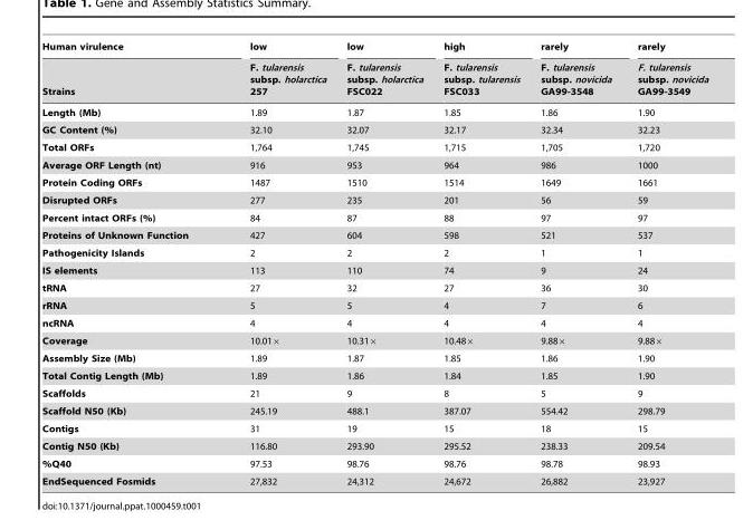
<table><thead><tr><td rowspan="2">Human virulence Strains</td><td rowspan="2">low F. tularensis subsp. holarctica 257</td><td rowspan="2">low F. tularensis subsp. holarctica FSC022</td><td rowspan="2">high F. tularensis subsp. tularensis FSC033</td><td rowspan="2">rarely F. tularensis subsp. novicida GA99-3548</td><td rowspan="2">rarely F. tularensis subsp. novicida GA99-3549</td></tr><tr></tr></thead><tbody><tr><td>Length (Mb)</td><td>1.89</td><td>1.87</td><td>1.85</td><td>1.86</td><td>1.90</td></tr><tr><td>GC Content (%)</td><td>32.10</td><td>32.07</td><td>32.17</td><td>32.34</td><td>32.23</td></tr><tr><td>Total ORFs</td><td>1,764</td><td>1,745</td><td>1,715</td><td>1,705</td><td>1,720</td></tr><tr><td>Average ORF Length (nt)</td><td>916</td><td>953</td><td>964</td><td>986</td><td>1000</td></tr><tr><td>Protein Coding ORFs</td><td>1487</td><td>1510</td><td>1514</td><td>1649</td><td>1661</td></tr><tr><td>Disrupted ORFs</td><td>277</td><td>235</td><td>201</td><td>56</td><td>59</td></tr><tr><td>Percent intact ORFs (%)</td><td>84</td><td>87</td><td>88</td><td>97</td><td>97</td></tr><tr><td>Proteins of Unknown Function</td><td>427</td><td>604</td><td>598</td><td>521</td><td>537</td></tr><tr><td>Pathogenicity Islands</td><td>2</td><td>2</td><td>2</td><td>1</td><td>1</td></tr><tr><td>IS elements</td><td>113</td><td>110</td><td>74</td><td>9</td><td>24</td></tr><tr><td>tRNA</td><td>27</td><td>32</td><td>27</td><td>36</td><td>30</td></tr><tr><td>rRNA</td><td>5</td><td>5</td><td>4</td><td>7</td><td>6</td></tr><tr><td>ncRNA</td><td>4</td><td>4</td><td>4</td><td>4</td><td>4</td></tr><tr><td>Coverage</td><td>10.01×</td><td>10.31×</td><td>10.48×</td><td>9.88×</td><td>9.88×</td></tr><tr><td>Assembly Size (Mb)</td><td>1.89</td><td>1.87</td><td>1.85</td><td>1.86</td><td>1.90</td></tr><tr><td>Total Contig Length (Mb)</td><td>1.89</td><td>1.86</td><td>1.84</td><td>1.85</td><td>1.90</td></tr><tr><td>Scaffolds</td><td>21</td><td>9</td><td>8</td><td>5</td><td>9</td></tr><tr><td>Scaffold N50 (Kb)</td><td>245.19</td><td>488.1</td><td>387.07</td><td>554.42</td><td>298.79</td></tr><tr><td>Contigs</td><td>31</td><td>19</td><td>15</td><td>18</td><td>15</td></tr><tr><td>Contig N50 (Kb)</td><td>116.80</td><td>293.90</td><td>295.52</td><td>238.33</td><td>209.54</td></tr><tr><td>%Q40</td><td>97.53</td><td>98.76</td><td>98.76</td><td>98.78</td><td>98.93</td></tr><tr><td>EndSequenced Fosmids</td><td>27,832</td><td>24,312</td><td>24,672</td><td>26,882</td><td>23,927</td></tr></tbody></table>